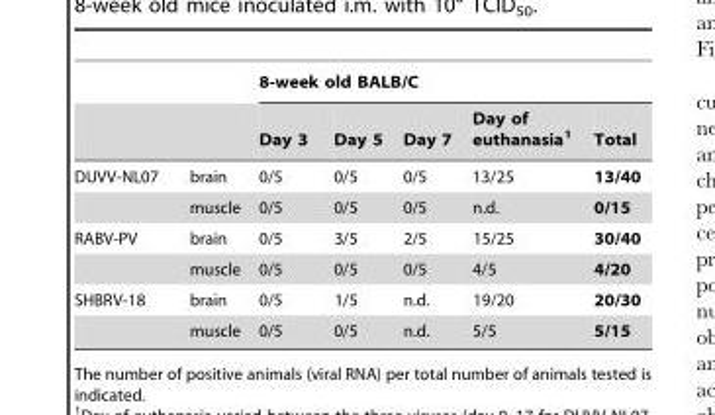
<table><thead><tr><td rowspan="2"></td><td rowspan="2"></td><td colspan="5">8-week old BALB/C</td></tr><tr><td>Day 3</td><td>Day 5</td><td>Day 7</td><td>Day of euthanasia<sup>1</sup></td><td>Total</td></tr></thead><tbody><tr><td rowspan="2">DUVV-NL07</td><td>brain</td><td>0/5</td><td>0/5</td><td>0/5</td><td>13/25</td><td>13/40</td></tr><tr><td>muscle</td><td>0/5</td><td>0/5</td><td>0/5</td><td>n.d.</td><td>0/15</td></tr><tr><td rowspan="2">RABV-PV</td><td>brain</td><td>0/5</td><td>3/5</td><td>2/5</td><td>15/25</td><td>30/40</td></tr><tr><td>muscle</td><td>0/5</td><td>0/5</td><td>0/5</td><td>4/5</td><td>4/20</td></tr><tr><td rowspan="2">SHBRV-18</td><td>brain</td><td>0/5</td><td>1/5</td><td>n.d.</td><td>19/20</td><td>20/30</td></tr><tr><td>muscle</td><td>0/5</td><td>0/5</td><td>n.d.</td><td>5/5</td><td>5/15</td></tr></tbody></table>